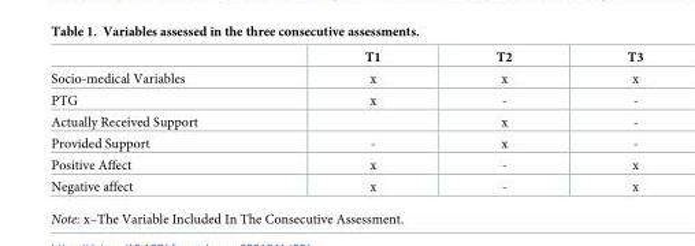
<table><thead><tr><td></td><td>T1</td><td>T2</td><td>T3</td></tr></thead><tbody><tr><td>Socio-medical Variables</td><td>x</td><td>x</td><td>x</td></tr><tr><td>PTG</td><td>x</td><td>-</td><td>-</td></tr><tr><td>Actually Received Support</td><td></td><td>x</td><td>-</td></tr><tr><td>Provided Support</td><td>-</td><td>x</td><td>-</td></tr><tr><td>Positive Affect</td><td>x</td><td>-</td><td>x</td></tr><tr><td>Negative affect</td><td>x</td><td>-</td><td>x</td></tr></tbody></table>